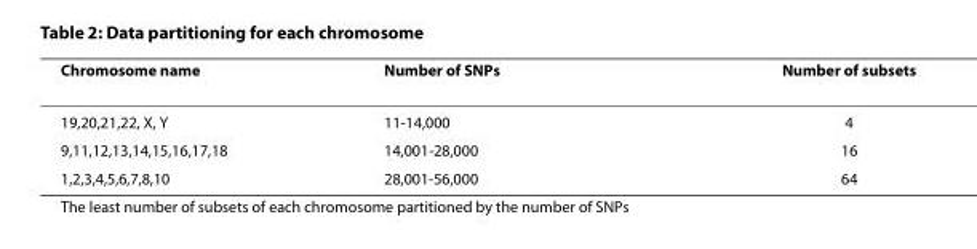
<table><thead><tr><td>Chromosome name</td><td>Number of SNPs</td><td>Number of subsets</td></tr></thead><tbody><tr><td>19,20,21,22, X, Y</td><td>11-14,000</td><td>4</td></tr><tr><td>9,11,12,13,14,15,16,17,18</td><td>14,001-28,000</td><td>16</td></tr><tr><td>1,2,3,4,5,6,7,8,10</td><td>28,001-56,000</td><td>64</td></tr></tbody></table>